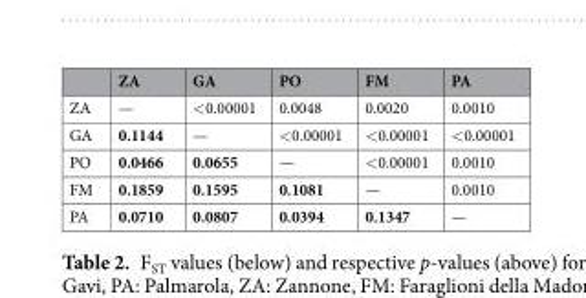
<table><thead><tr><td></td><td>ZA</td><td>GA</td><td>PO</td><td>FM</td><td>PA</td></tr></thead><tbody><tr><td>ZA</td><td>—</td><td>&lt;0.00001</td><td>0.0048</td><td>0.0020</td><td>0.0010</td></tr><tr><td>GA</td><td>0.1144</td><td>—</td><td>&lt;0.00001</td><td>&lt;0.00001</td><td>&lt;0.00001</td></tr><tr><td>PO</td><td>0.0466</td><td>0.0655</td><td>—</td><td>&lt;0.00001</td><td>0.0010</td></tr><tr><td>FM</td><td>0.1859</td><td>0.1595</td><td>0.1081</td><td>—</td><td>0.0010</td></tr><tr><td>PA</td><td>0.0710</td><td>0.0807</td><td>0.0394</td><td>0.1347</td><td>—</td></tr></tbody></table>